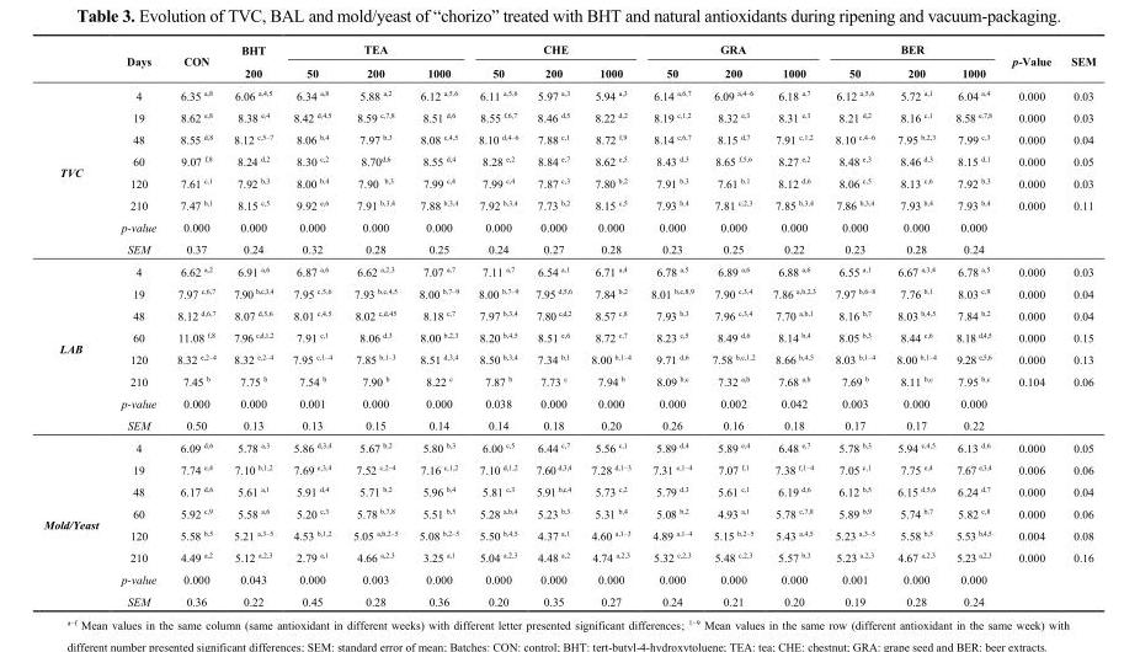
<table><thead><tr><td rowspan="2"></td><td rowspan="2">Days</td><td rowspan="2">CON</td><td rowspan="2">BHT 200</td><td colspan="3">TEA</td><td colspan="3">CHE</td><td colspan="3">GRA</td><td colspan="3">BER</td><td rowspan="2">p-Value</td><td rowspan="2">SEM</td></tr><tr><td>50</td><td>200</td><td>1000</td><td>50</td><td>200</td><td>1000</td><td>50</td><td>200</td><td>1000</td><td>50</td><td>200</td><td>1000</td></tr></thead><tbody><tr><td rowspan="8">TVC</td><td>4</td><td>6.35 <sup>a,8</sup></td><td>6.06 <sup>a,4,5</sup></td><td>6.34 <sup>a,8</sup></td><td>5.88 <sup>a,2</sup></td><td>6.12 <sup>a,5,6</sup></td><td>6.11 <sup>a,5,6</sup></td><td>5.97 <sup>a,3</sup></td><td>5.94 <sup>a,3</sup></td><td>6.14 <sup>a,6,7</sup></td><td>6.09 <sup>a,4–6</sup></td><td>6.18 <sup>a,7</sup></td><td>6.12 <sup>a,5,6</sup></td><td>5.72 <sup>a,1</sup></td><td>6.04 <sup>a,4</sup></td><td>0.000</td><td>0.03</td></tr><tr><td>19</td><td>8.62 <sup>e,8</sup></td><td>8.38 <sup>e,4</sup></td><td>8.42 <sup>d,4,5</sup></td><td>8.59 <sup>c,7,8</sup></td><td>8.51 <sup>d,6</sup></td><td>8.55 <sup>f,6,7</sup></td><td>8.46 <sup>d,5</sup></td><td>8.22 <sup>d,2</sup></td><td>8.19 <sup>c,1,2</sup></td><td>8.32 <sup>e,3</sup></td><td>8.31 <sup>e,3</sup></td><td>8.21 <sup>d,2</sup></td><td>8.16 <sup>c,1</sup></td><td>8.58 <sup>e,7,8</sup></td><td>0.000</td><td>0.03</td></tr><tr><td>48</td><td>8.55 <sup>d,8</sup></td><td>8.12 <sup>c,5–7</sup></td><td>8.06 <sup>b,4</sup></td><td>7.97 <sup>b,3</sup></td><td>8.08 <sup>c,4,5</sup></td><td>8.10 <sup>d,4–6</sup></td><td>7.88 <sup>c,1</sup></td><td>8.72 <sup>f,9</sup></td><td>8.14 <sup>c,6,7</sup></td><td>8.15 <sup>d,7</sup></td><td>7.91 <sup>c,1,2</sup></td><td>8.10 <sup>c,4–6</sup></td><td>7.95 <sup>b,2,3</sup></td><td>7.99 <sup>c,3</sup></td><td>0.000</td><td>0.04</td></tr><tr><td>60</td><td>9.07 <sup>f,8</sup></td><td>8.24 <sup>d,2</sup></td><td>8.30 <sup>c,2</sup></td><td>8.70<sup>d,6</sup></td><td>8.55 <sup>d,4</sup></td><td>8.28 <sup>e,2</sup></td><td>8.84 <sup>e,7</sup></td><td>8.62 <sup>e,5</sup></td><td>8.43 <sup>d,3</sup></td><td>8.65 <sup>f,5,6</sup></td><td>8.27 <sup>e,2</sup></td><td>8.48 <sup>e,3</sup></td><td>8.46 <sup>d,3</sup></td><td>8.15 <sup>d,1</sup></td><td>0.000</td><td>0.05</td></tr><tr><td>120</td><td>7.61 <sup>c,1</sup></td><td>7.92 <sup>b,3</sup></td><td>8.00 <sup>b,4</sup></td><td>7.90 <sup>b,3</sup></td><td>7.99 <sup>c,4</sup></td><td>7.99 <sup>c,4</sup></td><td>7.87 <sup>c,3</sup></td><td>7.80 <sup>b,2</sup></td><td>7.91 <sup>b,3</sup></td><td>7.61 <sup>b,1</sup></td><td>8.12 <sup>d,6</sup></td><td>8.06 <sup>c,5</sup></td><td>8.13 <sup>c,6</sup></td><td>7.92 <sup>b,3</sup></td><td>0.000</td><td>0.03</td></tr><tr><td>210</td><td>7.47 <sup>b,1</sup></td><td>8.15 <sup>c,5</sup></td><td>9.92 <sup>e,6</sup></td><td>7.91 <sup>b,3,4</sup></td><td>7.88 <sup>b,3,4</sup></td><td>7.92 <sup>b,3,4</sup></td><td>7.73 <sup>b,2</sup></td><td>8.15 <sup>c,5</sup></td><td>7.93 <sup>b,4</sup></td><td>7.81 <sup>c,2,3</sup></td><td>7.85 <sup>b,3,4</sup></td><td>7.86 <sup>b,3,4</sup></td><td>7.93 <sup>b,4</sup></td><td>7.93 <sup>b,4</sup></td><td>0.000</td><td>0.11</td></tr><tr><td>p-value</td><td>0.000</td><td>0.000</td><td>0.000</td><td>0.000</td><td>0.000</td><td>0.000</td><td>0.000</td><td>0.000</td><td>0.000</td><td>0.000</td><td>0.000</td><td>0.000</td><td>0.000</td><td>0.000</td><td></td><td></td></tr><tr><td>SEM</td><td>0.37</td><td>0.24</td><td>0.32</td><td>0.28</td><td>0.25</td><td>0.24</td><td>0.27</td><td>0.28</td><td>0.23</td><td>0.25</td><td>0.22</td><td>0.23</td><td>0.28</td><td>0.24</td><td></td><td></td></tr><tr><td rowspan="8">LAB</td><td>4</td><td>6.62 <sup>a,2</sup></td><td>6.91 <sup>a,6</sup></td><td>6.87 <sup>a,6</sup></td><td>6.62 <sup>a,2,3</sup></td><td>7.07 <sup>a,7</sup></td><td>7.11 <sup>a,7</sup></td><td>6.54 <sup>a,1</sup></td><td>6.71 <sup>a,4</sup></td><td>6.78 <sup>a,5</sup></td><td>6.89 <sup>a,6</sup></td><td>6.88 <sup>a,6</sup></td><td>6.55 <sup>a,1</sup></td><td>6.67 <sup>a,3,4</sup></td><td>6.78 <sup>a,5</sup></td><td>0.000</td><td>0.03</td></tr><tr><td>19</td><td>7.97 <sup>c,6,7</sup></td><td>7.90 <sup>b,c,3,4</sup></td><td>7.95 <sup>c,5,6</sup></td><td>7.93 <sup>b,c,4,5</sup></td><td>8.00 <sup>b,7–9</sup></td><td>8.00 <sup>b,7–9</sup></td><td>7.95 <sup>d,5,6</sup></td><td>7.84 <sup>b,2</sup></td><td>8.01 <sup>b,c,8,9</sup></td><td>7.90 <sup>c,3,4</sup></td><td>7.86 <sup>a,b,2,3</sup></td><td>7.97 <sup>b,6–8</sup></td><td>7.76 <sup>b,1</sup></td><td>8.03 <sup>c,9</sup></td><td>0.000</td><td>0.04</td></tr><tr><td>48</td><td>8.12 <sup>d,6,7</sup></td><td>8.07 <sup>d,5,6</sup></td><td>8.01 <sup>c,4,5</sup></td><td>8.02 <sup>c,d,45</sup></td><td>8.18 <sup>c,7</sup></td><td>7.97 <sup>b,3,4</sup></td><td>7.80 <sup>c,d,2</sup></td><td>8.57 <sup>c,8</sup></td><td>7.93 <sup>b,3</sup></td><td>7.96 <sup>c,3,4</sup></td><td>7.70 <sup>a,b,1</sup></td><td>8.16 <sup>b,7</sup></td><td>8.03 <sup>b,4,5</sup></td><td>7.84 <sup>b,2</sup></td><td>0.000</td><td>0.04</td></tr><tr><td>60</td><td>11.08 <sup>f,8</sup></td><td>7.96 <sup>c,d,1,2</sup></td><td>7.91 <sup>c,1</sup></td><td>8.06 <sup>d,3</sup></td><td>8.00 <sup>b,2,3</sup></td><td>8.20 <sup>b,4,5</sup></td><td>8.51 <sup>e,6</sup></td><td>8.72 <sup>c,7</sup></td><td>8.23 <sup>c,5</sup></td><td>8.49 <sup>d,6</sup></td><td>8.14 <sup>b,4</sup></td><td>8.05 <sup>b,3</sup></td><td>8.44 <sup>c,6</sup></td><td>8.18 <sup>d,4,5</sup></td><td>0.000</td><td>0.15</td></tr><tr><td>120</td><td>8.32 <sup>e,2–4</sup></td><td>8.32 <sup>e,2–4</sup></td><td>7.95 <sup>c,1–4</sup></td><td>7.85 <sup>b,1–3</sup></td><td>8.51 <sup>d,3,4</sup></td><td>8.50 <sup>b,3,4</sup></td><td>7.34 <sup>b,1</sup></td><td>8.00 <sup>b,1–4</sup></td><td>9.71 <sup>d,6</sup></td><td>7.58 <sup>b,c,1,2</sup></td><td>8.66 <sup>b,4,5</sup></td><td>8.03 <sup>b,1–4</sup></td><td>8.00 <sup>b,1–4</sup></td><td>9.28 <sup>e,5,6</sup></td><td>0.000</td><td>0.13</td></tr><tr><td>210</td><td>7.45 <sup>b</sup></td><td>7.75 <sup>b</sup></td><td>7.54 <sup>b</sup></td><td>7.90 <sup>b</sup></td><td>8.22 <sup>c</sup></td><td>7.87 <sup>b</sup></td><td>7.73 <sup>c</sup></td><td>7.94 <sup>b</sup></td><td>8.09 <sup>b,c</sup></td><td>7.32 <sup>a,b</sup></td><td>7.68 <sup>a,b</sup></td><td>7.69 <sup>b</sup></td><td>8.11 <sup>b,c</sup></td><td>7.95 <sup>b,c</sup></td><td>0.104</td><td>0.06</td></tr><tr><td>p-value</td><td>0.000</td><td>0.000</td><td>0.001</td><td>0.000</td><td>0.000</td><td>0.038</td><td>0.000</td><td>0.000</td><td>0.000</td><td>0.002</td><td>0.042</td><td>0.003</td><td>0.000</td><td>0.000</td><td></td><td></td></tr><tr><td>SEM</td><td>0.50</td><td>0.13</td><td>0.13</td><td>0.15</td><td>0.14</td><td>0.14</td><td>0.18</td><td>0.20</td><td>0.26</td><td>0.16</td><td>0.18</td><td>0.17</td><td>0.17</td><td>0.22</td><td></td><td></td></tr><tr><td rowspan="8">Mold/Yeast</td><td>4</td><td>6.09 <sup>d,6</sup></td><td>5.78 <sup>a,3</sup></td><td>5.86 <sup>d,3,4</sup></td><td>5.67 <sup>b,2</sup></td><td>5.80 <sup>b,3</sup></td><td>6.00 <sup>c,5</sup></td><td>6.44 <sup>c,7</sup></td><td>5.56 <sup>c,1</sup></td><td>5.89 <sup>d,4</sup></td><td>5.89 <sup>e,4</sup></td><td>6.48 <sup>e,7</sup></td><td>5.78 <sup>b,3</sup></td><td>5.94 <sup>c,4,5</sup></td><td>6.13 <sup>d,6</sup></td><td>0.000</td><td>0.05</td></tr><tr><td>19</td><td>7.74 <sup>e,4</sup></td><td>7.10 <sup>b,1,2</sup></td><td>7.69 <sup>e,3,4</sup></td><td>7.52 <sup>c,2–4</sup></td><td>7.16 <sup>c,1,2</sup></td><td>7.10 <sup>d,1,2</sup></td><td>7.60 <sup>d,3,4</sup></td><td>7.28 <sup>d,1–3</sup></td><td>7.31 <sup>e,1–4</sup></td><td>7.07 <sup>f,1</sup></td><td>7.38 <sup>f,1–4</sup></td><td>7.05 <sup>c,1</sup></td><td>7.75 <sup>e,4</sup></td><td>7.67 <sup>e,3,4</sup></td><td>0.006</td><td>0.06</td></tr><tr><td>48</td><td>6.17 <sup>d,6</sup></td><td>5.61 <sup>a,1</sup></td><td>5.91 <sup>d,4</sup></td><td>5.71 <sup>b,2</sup></td><td>5.96 <sup>b,4</sup></td><td>5.81 <sup>c,3</sup></td><td>5.91 <sup>b,c,4</sup></td><td>5.73 <sup>c,2</sup></td><td>5.79 <sup>d,3</sup></td><td>5.61 <sup>c,1</sup></td><td>6.19 <sup>d,6</sup></td><td>6.12 <sup>b,5</sup></td><td>6.15 <sup>d,5,6</sup></td><td>6.24 <sup>d,7</sup></td><td>0.000</td><td>0.04</td></tr><tr><td>60</td><td>5.92 <sup>c,9</sup></td><td>5.58 <sup>a,6</sup></td><td>5.20 <sup>c,3</sup></td><td>5.78 <sup>b,7,8</sup></td><td>5.51 <sup>b,5</sup></td><td>5.28 <sup>a,b,4</sup></td><td>5.23 <sup>b,3</sup></td><td>5.31 <sup>b,4</sup></td><td>5.08 <sup>b,2</sup></td><td>4.93 <sup>a,1</sup></td><td>5.78 <sup>c,7,8</sup></td><td>5.89 <sup>b,9</sup></td><td>5.74 <sup>b,7</sup></td><td>5.82 <sup>c,8</sup></td><td>0.000</td><td>0.06</td></tr><tr><td>120</td><td>5.58 <sup>b,5</sup></td><td>5.21 <sup>a,3–5</sup></td><td>4.53 <sup>b,1,2</sup></td><td>5.05 <sup>a,b,2–5</sup></td><td>5.08 <sup>b,2–5</sup></td><td>5.50 <sup>b,4,5</sup></td><td>4.37 <sup>a,1</sup></td><td>4.60 <sup>a,1–3</sup></td><td>4.89 <sup>a,1–4</sup></td><td>5.15 <sup>b,2–5</sup></td><td>5.43 <sup>a,4,5</sup></td><td>5.23 <sup>a,3–5</sup></td><td>5.58 <sup>b,5</sup></td><td>5.53 <sup>b,4,5</sup></td><td>0.004</td><td>0.08</td></tr><tr><td>210</td><td>4.49 <sup>a,2</sup></td><td>5.12 <sup>a,2,3</sup></td><td>2.79 <sup>a,1</sup></td><td>4.66 <sup>a,2,3</sup></td><td>3.25 <sup>a,1</sup></td><td>5.04 <sup>a,2,3</sup></td><td>4.48 <sup>a,2</sup></td><td>4.74 <sup>a,2,3</sup></td><td>5.32 <sup>c,2,3</sup></td><td>5.48 <sup>c,2,3</sup></td><td>5.57 <sup>b,3</sup></td><td>5.23 <sup>a,2,3</sup></td><td>4.67 <sup>a,2,3</sup></td><td>5.23 <sup>a,2,3</sup></td><td>0.000</td><td>0.16</td></tr><tr><td>p-value</td><td>0.000</td><td>0.043</td><td>0.000</td><td>0.003</td><td>0.000</td><td>0.000</td><td>0.000</td><td>0.000</td><td>0.000</td><td>0.000</td><td>0.000</td><td>0.001</td><td>0.000</td><td>0.000</td><td></td><td></td></tr><tr><td>SEM</td><td>0.36</td><td>0.22</td><td>0.45</td><td>0.28</td><td>0.36</td><td>0.20</td><td>0.35</td><td>0.27</td><td>0.24</td><td>0.21</td><td>0.20</td><td>0.19</td><td>0.28</td><td>0.24</td><td></td><td></td></tr></tbody></table>